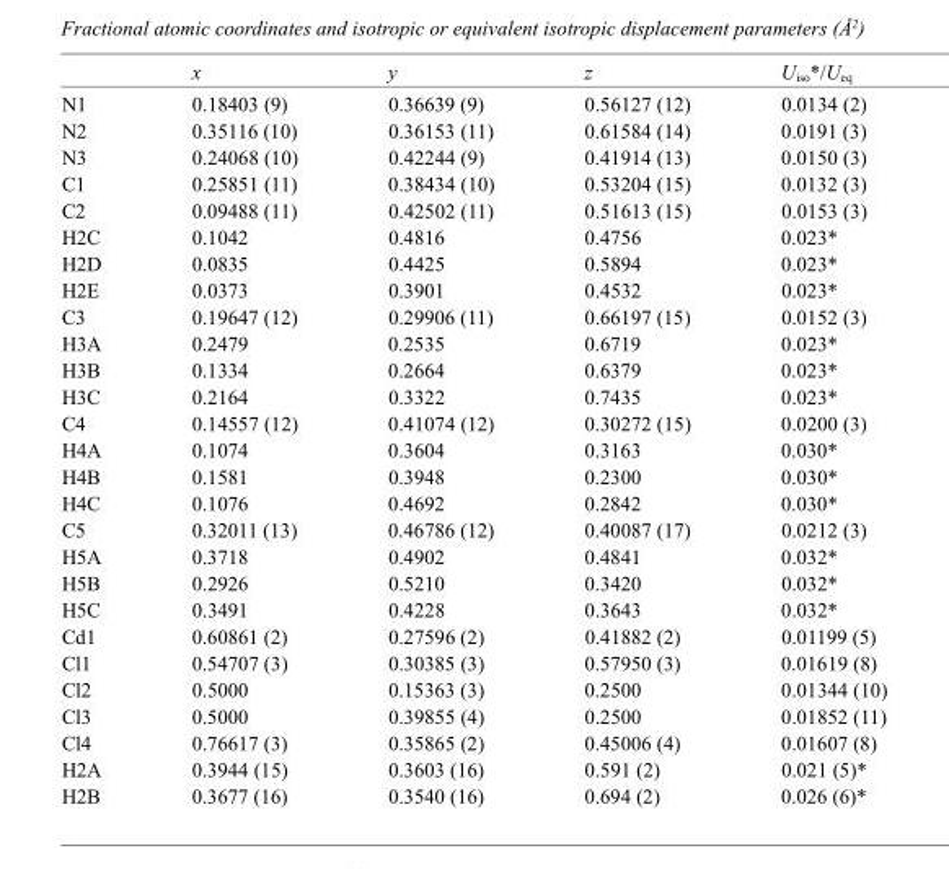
<table><thead><tr><td></td><td>x</td><td>y</td><td>z</td><td>U<sub>iso</sub>*/U<sub>eq</sub></td></tr></thead><tbody><tr><td>N1</td><td>0.18403 (9)</td><td>0.36639 (9)</td><td>0.56127 (12)</td><td>0.0134 (2)</td></tr><tr><td>N2</td><td>0.35116 (10)</td><td>0.36153 (11)</td><td>0.61584 (14)</td><td>0.0191 (3)</td></tr><tr><td>N3</td><td>0.24068 (10)</td><td>0.42244 (9)</td><td>0.41914 (13)</td><td>0.0150 (3)</td></tr><tr><td>C1</td><td>0.25851 (11)</td><td>0.38434 (10)</td><td>0.53204 (15)</td><td>0.0132 (3)</td></tr><tr><td>C2</td><td>0.09488 (11)</td><td>0.42502 (11)</td><td>0.51613 (15)</td><td>0.0153 (3)</td></tr><tr><td>H2C</td><td>0.1042</td><td>0.4816</td><td>0.4756</td><td>0.023*</td></tr><tr><td>H2D</td><td>0.0835</td><td>0.4425</td><td>0.5894</td><td>0.023*</td></tr><tr><td>H2E</td><td>0.0373</td><td>0.3901</td><td>0.4532</td><td>0.023*</td></tr><tr><td>C3</td><td>0.19647 (12)</td><td>0.29906 (11)</td><td>0.66197 (15)</td><td>0.0152 (3)</td></tr><tr><td>H3A</td><td>0.2479</td><td>0.2535</td><td>0.6719</td><td>0.023*</td></tr><tr><td>H3B</td><td>0.1334</td><td>0.2664</td><td>0.6379</td><td>0.023*</td></tr><tr><td>H3C</td><td>0.2164</td><td>0.3322</td><td>0.7435</td><td>0.023*</td></tr><tr><td>C4</td><td>0.14557 (12)</td><td>0.41074 (12)</td><td>0.30272 (15)</td><td>0.0200 (3)</td></tr><tr><td>H4A</td><td>0.1074</td><td>0.3604</td><td>0.3163</td><td>0.030*</td></tr><tr><td>H4B</td><td>0.1581</td><td>0.3948</td><td>0.2300</td><td>0.030*</td></tr><tr><td>H4C</td><td>0.1076</td><td>0.4692</td><td>0.2842</td><td>0.030*</td></tr><tr><td>C5</td><td>0.32011 (13)</td><td>0.46786 (12)</td><td>0.40087 (17)</td><td>0.0212 (3)</td></tr><tr><td>H5A</td><td>0.3718</td><td>0.4902</td><td>0.4841</td><td>0.032*</td></tr><tr><td>H5B</td><td>0.2926</td><td>0.5210</td><td>0.3420</td><td>0.032*</td></tr><tr><td>H5C</td><td>0.3491</td><td>0.4228</td><td>0.3643</td><td>0.032*</td></tr><tr><td>Cd1</td><td>0.60861 (2)</td><td>0.27596 (2)</td><td>0.41882 (2)</td><td>0.01199 (5)</td></tr><tr><td>Cl1</td><td>0.54707 (3)</td><td>0.30385 (3)</td><td>0.57950 (3)</td><td>0.01619 (8)</td></tr><tr><td>Cl2</td><td>0.5000</td><td>0.15363 (3)</td><td>0.2500</td><td>0.01344 (10)</td></tr><tr><td>Cl3</td><td>0.5000</td><td>0.39855 (4)</td><td>0.2500</td><td>0.01852 (11)</td></tr><tr><td>Cl4</td><td>0.76617 (3)</td><td>0.35865 (2)</td><td>0.45006 (4)</td><td>0.01607 (8)</td></tr><tr><td>H2A</td><td>0.3944 (15)</td><td>0.3603 (16)</td><td>0.591 (2)</td><td>0.021 (5)*</td></tr><tr><td>H2B</td><td>0.3677 (16)</td><td>0.3540 (16)</td><td>0.694 (2)</td><td>0.026 (6)*</td></tr></tbody></table>